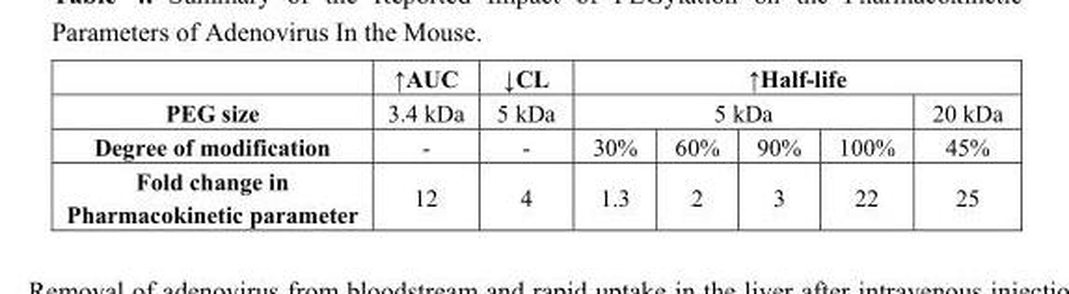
<table><thead><tr><td rowspan="3">PEG size Degree of modification</td><td rowspan="3">↑AUC 3.4 kDa -</td><td rowspan="3">↓CL 5 kDa -</td><td colspan="5">↑Half-life</td></tr><tr><td colspan="4">5 kDa</td><td rowspan="2">20 kDa 45%</td></tr><tr><td>30%</td><td>60%</td><td>90%</td><td>100%</td></tr></thead><tbody><tr><td>Fold change in Pharmacokinetic parameter</td><td>12</td><td>4</td><td>1.3</td><td>2</td><td>3</td><td>22</td><td>25</td></tr></tbody></table>